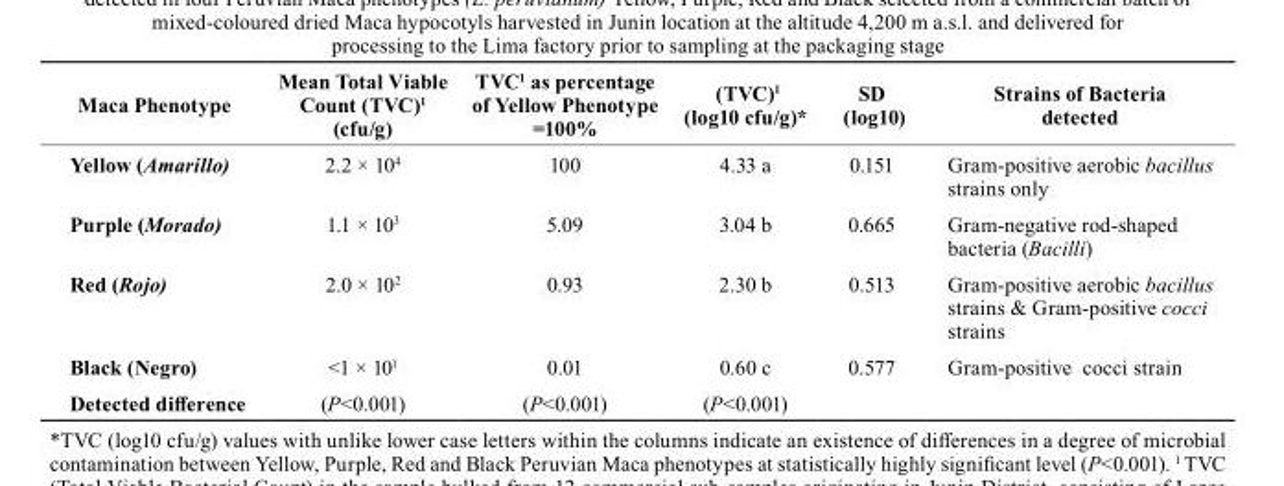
<table><thead><tr><td>Maca Phenotype</td><td>Mean total Viable count (tVc)<sup>1</sup> (cfu/g)</td><td>tVc<sup>1</sup> as percentage of Yellow Phenotype =100%</td><td>(tVc)<sup>1</sup> (log10 cfu/g)*</td><td>sD (log10)</td><td>strains of bacteria detected</td></tr></thead><tbody><tr><td>Yellow (Amarillo)</td><td>2.2 × 10<sup>4</sup></td><td>100</td><td>4.33 a</td><td>0.151</td><td>Gram-positive aerobic bacillus strains only</td></tr><tr><td>Purple (Morado)</td><td>1.1 × 10<sup>3</sup></td><td>5.09</td><td>3.04 b</td><td>0.665</td><td>Gram-negative rod-shaped bacteria (Bacilli)</td></tr><tr><td>red (Rojo)</td><td>2.0 × 10<sup>2</sup></td><td>0.93</td><td>2.30 b</td><td>0.513</td><td>Gram-positive aerobic bacillus strains &amp; Gram-positive cocci strains</td></tr><tr><td>black (Negro)</td><td>&lt;1 × 10<sup>1</sup></td><td>0.01</td><td>0.60 c</td><td>0.577</td><td>Gram-positive cocci strain</td></tr><tr><td>Detected difference</td><td>(P&lt;0.001)</td><td>(P&lt;0.001)</td><td>(P&lt;0.001)</td><td></td><td></td></tr></tbody></table>